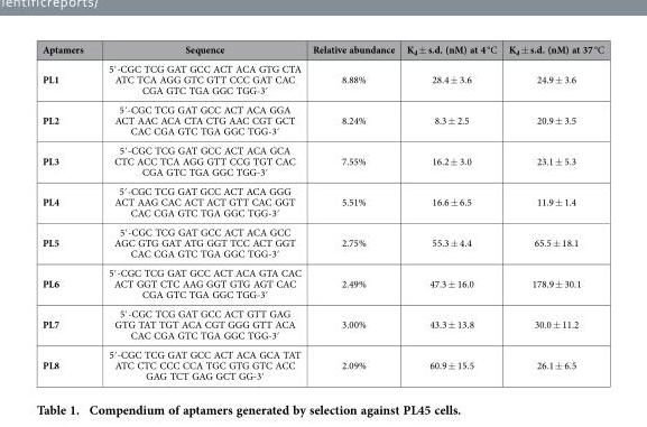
<table><thead><tr><td>Aptamers</td><td>Sequence</td><td>Relative abundance</td><td>K<sub>d</sub> ± s.d. (nM) at 4 °C</td><td>K<sub>d</sub> ± s.d. (nM) at 37 °C</td></tr></thead><tbody><tr><td>PL1</td><td>5′ -CGC TCG GAT GCC ACT ACA GTG CTA ATC TCA AGG GTC GTT CCC GAT CAC CGA GTC TGA GGC TGG-3′</td><td>8.88%</td><td>28.4 ± 3.6</td><td>24.9 ± 3.6</td></tr><tr><td>PL2</td><td>5′ -CGC TCG GAT GCC ACT ACA GGA ACT AAC ACA CTA CTG AAC CGT GCT CAC CGA GTC TGA GGC TGG-3′</td><td>8.24%</td><td>8.3 ± 2.5</td><td>20.9 ± 3.5</td></tr><tr><td>PL3</td><td>5′ -CGC TCG GAT GCC ACT ACA GCA CTC ACC TCA AGG GTT CCG TGT CAC CGA GTC TGA GGC TGG-3′</td><td>7.55%</td><td>16.2 ± 3.0</td><td>23.1 ± 5.3</td></tr><tr><td>PL4</td><td>5′ -CGC TCG GAT GCC ACT ACA GGG ACT AAG CAC ACT ACT GTT CAC GGT CAC CGA GTC TGA GGC TGG-3′</td><td>5.51%</td><td>16.6 ± 6.5</td><td>11.9 ± 1.4</td></tr><tr><td>PL5</td><td>5′ -CGC TCG GAT GCC ACT ACA GCC AGC GTG GAT ATG GGT TCC ACT GGT CAC CGA GTC TGA GGC TGG-3′</td><td>2.75%</td><td>55.3 ± 4.4</td><td>65.5 ± 18.1</td></tr><tr><td>PL6</td><td>5′ -CGC TCG GAT GCC ACT ACA GTA CAC ACT GGT CTC AAG GGT GTG AGT CAC CGA GTC TGA GGC TGG-3′</td><td>2.49%</td><td>47.3 ± 16.0</td><td>178.9 ± 30.1</td></tr><tr><td>PL7</td><td>5′ -CGC TCG GAT GCC ACT GTT GAG GTG TAT TGT ACA CGT GGG GTT ACA CAC CGA GTC TGA GGC TGG-3′</td><td>3.00%</td><td>43.3 ± 13.8</td><td>30.0 ± 11.2</td></tr><tr><td>PL8</td><td>5′ -CGC TCG GAT GCC ACT ACA GCA TAT ATC CTC CCC CCA TGC GTG GTC ACC GAG TCT GAG GCT GG-3′</td><td>2.09%</td><td>60.9 ± 15.5</td><td>26.1 ± 6.5</td></tr></tbody></table>